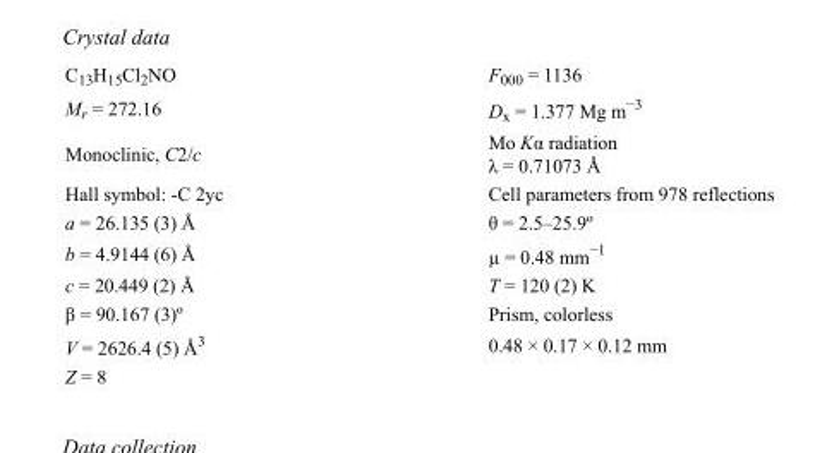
<table><tbody><tr><td>C<sub>13</sub>H<sub>15</sub>Cl<sub>2</sub>NO</td><td>F<sub>000</sub> = 1136</td></tr><tr><td>M<sub>r</sub> = 272.16</td><td>D<sub>x</sub> = 1.377 Mg m<sup>−3</sup></td></tr><tr><td>Monoclinic, C2/c</td><td>Mo Kα radiation λ = 0.71073 Å</td></tr><tr><td>Hall symbol: -C 2yc</td><td>Cell parameters from 978 reflections</td></tr><tr><td>a = 26.135 (3) Å</td><td>θ = 2.5–25.9º</td></tr><tr><td>b = 4.9144 (6) Å</td><td>µ = 0.48 mm<sup>−1</sup></td></tr><tr><td>c = 20.449 (2) Å</td><td>T = 120 (2) K</td></tr><tr><td>β = 90.167 (3)º</td><td>Prism, colorless</td></tr><tr><td>V = 2626.4 (5) Å<sup>3</sup></td><td>0.48 × 0.17 × 0.12 mm</td></tr><tr><td>Z = 8</td><td></td></tr></tbody></table>